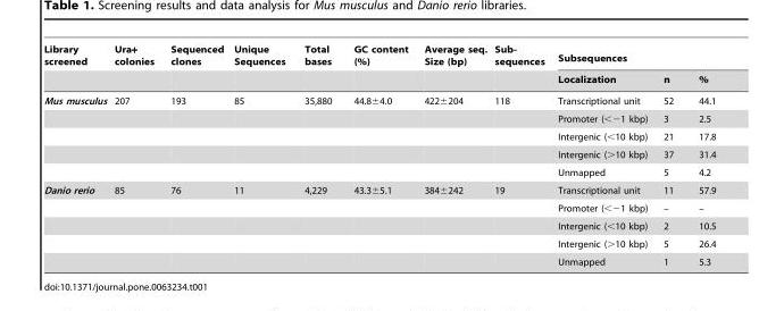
<table><thead><tr><td rowspan="2">Library screened</td><td rowspan="2">Ura+ colonies</td><td rowspan="2">Sequenced clones</td><td rowspan="2">Unique Sequences</td><td rowspan="2">Total bases</td><td rowspan="2">GC content (%)</td><td rowspan="2">Average seq. Size (bp)</td><td rowspan="2">Sub- sequences</td><td colspan="3">Subsequences</td></tr><tr><td>Localization</td><td>n</td><td>%</td></tr></thead><tbody><tr><td rowspan="5">Mus musculus</td><td>207</td><td>193</td><td>85</td><td>35,880</td><td>44.8±4.0</td><td>422±204</td><td>118</td><td>Transcriptional unit</td><td>52</td><td>44.1</td></tr><tr><td></td><td></td><td></td><td></td><td></td><td></td><td></td><td>Promoter (&lt;−1 kbp)</td><td>3</td><td>2.5</td></tr><tr><td></td><td></td><td></td><td></td><td></td><td></td><td></td><td>Intergenic (&lt;10 kbp)</td><td>21</td><td>17.8</td></tr><tr><td></td><td></td><td></td><td></td><td></td><td></td><td></td><td>Intergenic (&gt;10 kbp)</td><td>37</td><td>31.4</td></tr><tr><td></td><td></td><td></td><td></td><td></td><td></td><td></td><td>Unmapped</td><td>5</td><td>4.2</td></tr><tr><td rowspan="5">Danio rerio</td><td>85</td><td>76</td><td>11</td><td>4,229</td><td>43.3±5.1</td><td>384±242</td><td>19</td><td>Transcriptional unit</td><td>11</td><td>57.9</td></tr><tr><td></td><td></td><td></td><td></td><td></td><td></td><td></td><td>Promoter (&lt;−1 kbp)</td><td>–</td><td>–</td></tr><tr><td></td><td></td><td></td><td></td><td></td><td></td><td></td><td>Intergenic (&lt;10 kbp)</td><td>2</td><td>10.5</td></tr><tr><td></td><td></td><td></td><td></td><td></td><td></td><td></td><td>Intergenic (&gt;10 kbp)</td><td>5</td><td>26.4</td></tr><tr><td></td><td></td><td></td><td></td><td></td><td></td><td></td><td>Unmapped</td><td>1</td><td>5.3</td></tr></tbody></table>